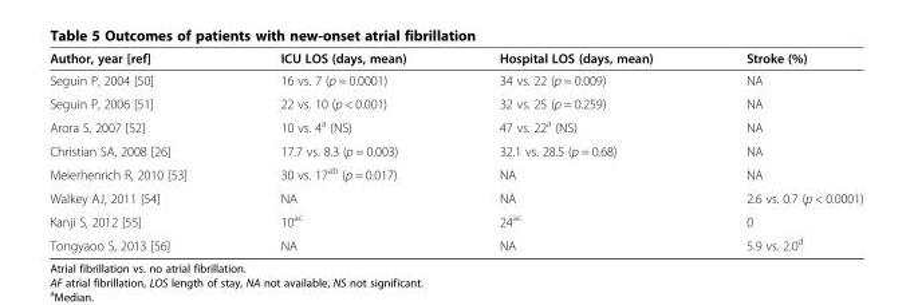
<table><thead><tr><td>Author, year [ref]</td><td>ICU LOS (days, mean)</td><td>Hospital LOS (days, mean)</td><td>Stroke (%)</td></tr></thead><tbody><tr><td>Seguin P, 2004 [50]</td><td>16 vs. 7 (p = 0.0001)</td><td>34 vs. 22 (p = 0.009)</td><td>NA</td></tr><tr><td>Seguin P, 2006 [51]</td><td>22 vs. 10 (p &lt; 0.001)</td><td>32 vs. 25 (p = 0.259)</td><td>NA</td></tr><tr><td>Arora S, 2007 [52]</td><td>10 vs. 4<sup>a</sup> (NS)</td><td>47 vs. 22<sup>a</sup> (NS)</td><td>NA</td></tr><tr><td>Christian SA, 2008 [26]</td><td>17.7 vs. 8.3 (p = 0.003)</td><td>32.1 vs. 28.5 (p = 0.68)</td><td>NA</td></tr><tr><td>Meierhenrich R, 2010 [53]</td><td>30 vs. 17<sup>ab</sup> (p = 0.017)</td><td>NA</td><td>NA</td></tr><tr><td>Walkey AJ, 2011 [54]</td><td>NA</td><td>NA</td><td>2.6 vs. 0.7 (p &lt; 0.0001)</td></tr><tr><td>Kanji S, 2012 [55]</td><td>10<sup>ac</sup></td><td>24<sup>ac</sup></td><td>0</td></tr><tr><td>Tongyaoo S, 2013 [56]</td><td>NA</td><td>NA</td><td>5.9 vs. 2.0<sup>d</sup></td></tr></tbody></table>